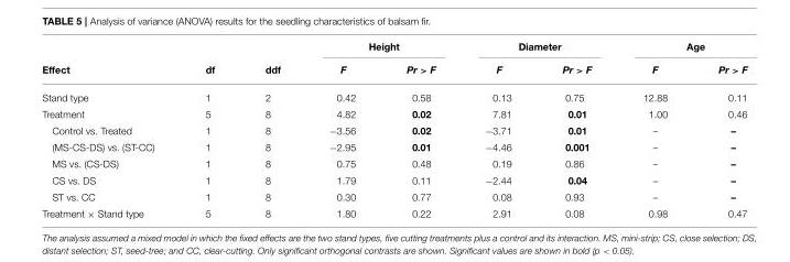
<table><thead><tr><td rowspan="2">Effect</td><td rowspan="2">df</td><td rowspan="2">ddf</td><td colspan="2">Height</td><td colspan="2">Diameter</td><td colspan="2">Age</td></tr><tr><td>F</td><td>Pr &gt; F</td><td>F</td><td>Pr &gt; F</td><td>F</td><td>Pr &gt; F</td></tr></thead><tbody><tr><td>Stand type</td><td>1</td><td>2</td><td>0.42</td><td>0.58</td><td>0.13</td><td>0.75</td><td>12.88</td><td>0.11</td></tr><tr><td>Treatment</td><td>5</td><td>8</td><td>4.82</td><td>0.02</td><td>7.81</td><td>0.01</td><td>1.00</td><td>0.46</td></tr><tr><td>Control vs. Treated</td><td>1</td><td>8</td><td>−3.56</td><td>0.02</td><td>−3.71</td><td>0.01</td><td>–</td><td>–</td></tr><tr><td>(MS-CS-DS) vs. (ST-CC)</td><td>1</td><td>8</td><td>−2.95</td><td>0.01</td><td>−4.46</td><td>0.001</td><td>–</td><td>–</td></tr><tr><td>MS vs. (CS-DS)</td><td>1</td><td>8</td><td>0.75</td><td>0.48</td><td>0.19</td><td>0.86</td><td>–</td><td>–</td></tr><tr><td>CS vs. DS</td><td>1</td><td>8</td><td>1.79</td><td>0.11</td><td>−2.44</td><td>0.04</td><td>–</td><td>–</td></tr><tr><td>ST vs. CC</td><td>1</td><td>8</td><td>0.30</td><td>0.77</td><td>0.08</td><td>0.93</td><td>–</td><td>–</td></tr><tr><td>Treatment × Stand type</td><td>5</td><td>8</td><td>1.80</td><td>0.22</td><td>2.91</td><td>0.08</td><td>0.98</td><td>0.47</td></tr></tbody></table>